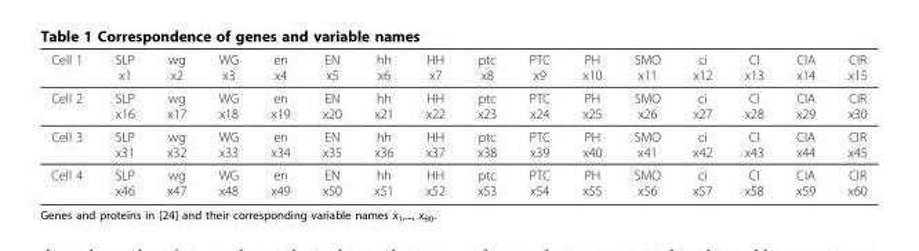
<table><thead><tr><td>Cell 1</td><td>SLP x1</td><td>wg x2</td><td>WG x3</td><td>en x4</td><td>EN x5</td><td>hh x6</td><td>HH x7</td><td>ptc x8</td><td>PTC x9</td><td>PH x10</td><td>SMO x11</td><td>ci x12</td><td>CI x13</td><td>CIA x14</td><td>CIR x15</td></tr></thead><tbody><tr><td>Cell 2</td><td>SLP x16</td><td>wg x17</td><td>WG x18</td><td>en x19</td><td>EN x20</td><td>hh x21</td><td>HH x22</td><td>ptc x23</td><td>PTC x24</td><td>PH x25</td><td>SMO x26</td><td>ci x27</td><td>CI x28</td><td>CIA x29</td><td>CIR x30</td></tr><tr><td>Cell 3</td><td>SLP x31</td><td>wg x32</td><td>WG x33</td><td>en x34</td><td>EN x35</td><td>hh x36</td><td>HH x37</td><td>ptc x38</td><td>PTC x39</td><td>PH x40</td><td>SMO x41</td><td>ci x42</td><td>CI x43</td><td>CIA x44</td><td>CIR x45</td></tr><tr><td>Cell 4</td><td>SLP x46</td><td>wg x47</td><td>WG x48</td><td>en x49</td><td>EN x50</td><td>hh x51</td><td>HH x52</td><td>ptc x53</td><td>PTC x54</td><td>PH x55</td><td>SMO x56</td><td>ci x57</td><td>CI x58</td><td>CIA x59</td><td>CIR x60</td></tr></tbody></table>